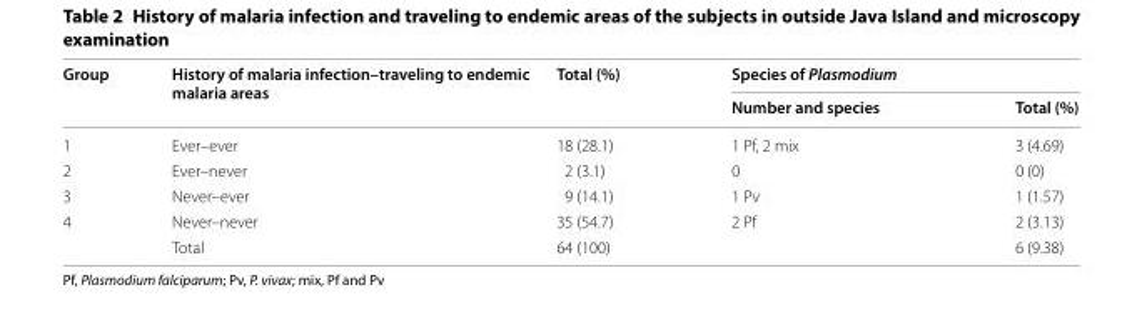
<table><thead><tr><td rowspan="2">Group</td><td rowspan="2">History of malaria infection–traveling to endemic malaria areas</td><td rowspan="2">Total (%)</td><td colspan="2">Species of Plasmodium</td></tr><tr><td>Number and species</td><td>Total (%)</td></tr></thead><tbody><tr><td>1</td><td>Ever–ever</td><td>18 (28.1)</td><td>1 Pf, 2 mix</td><td>3 (4.69)</td></tr><tr><td>2</td><td>Ever–never</td><td>2 (3.1)</td><td>0</td><td>0 (0)</td></tr><tr><td>3</td><td>Never–ever</td><td>9 (14.1)</td><td>1 Pv</td><td>1 (1.57)</td></tr><tr><td rowspan="2">4</td><td>Never–never</td><td>35 (54.7)</td><td>2 Pf</td><td>2 (3.13)</td></tr><tr><td>Total</td><td>64 (100)</td><td></td><td>6 (9.38)</td></tr></tbody></table>